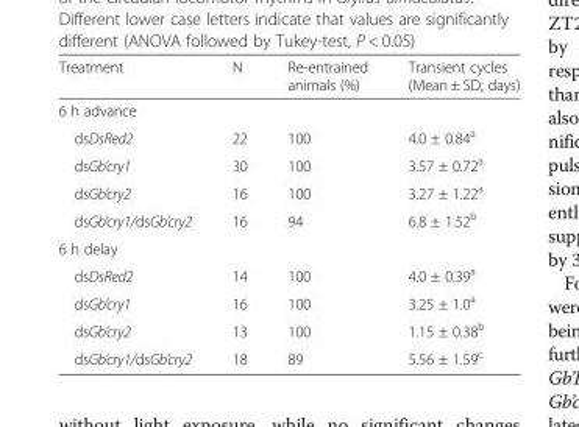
<table><thead><tr><td>Treatment</td><td>N</td><td>Re-entrained animals (%)</td><td>Transient cycles (Mean ± SD; days)</td></tr></thead><tbody><tr><td colspan="4">6 h advance</td></tr><tr><td>dsDsRed2</td><td>22</td><td>100</td><td>4.0 ± 0.84<sup>a</sup></td></tr><tr><td>dsGb’cry1</td><td>30</td><td>100</td><td>3.57 ± 0.72<sup>a</sup></td></tr><tr><td>dsGb’cry2</td><td>16</td><td>100</td><td>3.27 ± 1.22<sup>a</sup></td></tr><tr><td>dsGb’cry1/dsGb’cry2</td><td>16</td><td>94</td><td>6.8 ± 1.52<sup>b</sup></td></tr><tr><td colspan="4">6 h delay</td></tr><tr><td>dsDsRed2</td><td>14</td><td>100</td><td>4.0 ± 0.39<sup>a</sup></td></tr><tr><td>dsGb’cry1</td><td>16</td><td>100</td><td>3.25 ± 1.0<sup>a</sup></td></tr><tr><td>dsGb’cry2</td><td>13</td><td>100</td><td>1.15 ± 0.38<sup>b</sup></td></tr><tr><td>dsGb’cry1/dsGb’cry2</td><td>18</td><td>89</td><td>5.56 ± 1.59<sup>c</sup></td></tr></tbody></table>